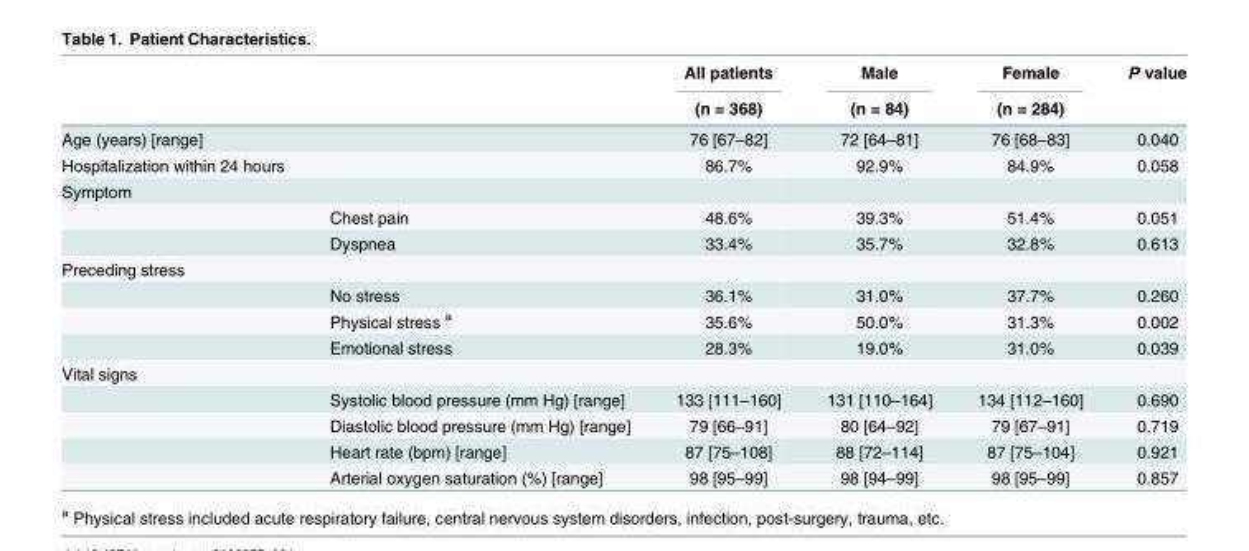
<table><thead><tr><td rowspan="2"></td><td rowspan="2"></td><td rowspan="2">All patients (n = 368)</td><td rowspan="2">Male (n = 84)</td><td rowspan="2">Female (n = 284)</td><td rowspan="2">P value</td></tr><tr></tr></thead><tbody><tr><td>Age (years) [range]</td><td></td><td>76 [67–82]</td><td>72 [64–81]</td><td>76 [68–83]</td><td>0.040</td></tr><tr><td>Hospitalization within 24 hours</td><td></td><td>86.7%</td><td>92.9%</td><td>84.9%</td><td>0.058</td></tr><tr><td colspan="6">Symptom</td></tr><tr><td></td><td>Chest pain</td><td>48.6%</td><td>39.3%</td><td>51.4%</td><td>0.051</td></tr><tr><td></td><td>Dyspnea</td><td>33.4%</td><td>35.7%</td><td>32.8%</td><td>0.613</td></tr><tr><td colspan="6">Preceding stress</td></tr><tr><td></td><td>No stress</td><td>36.1%</td><td>31.0%</td><td>37.7%</td><td>0.260</td></tr><tr><td></td><td>Physical stress <sup>a</sup></td><td>35.6%</td><td>50.0%</td><td>31.3%</td><td>0.002</td></tr><tr><td></td><td>Emotional stress</td><td>28.3%</td><td>19.0%</td><td>31.0%</td><td>0.039</td></tr><tr><td colspan="6">Vital signs</td></tr><tr><td></td><td>Systolic blood pressure (mm Hg) [range]</td><td>133 [111–160]</td><td>131 [110–164]</td><td>134 [112–160]</td><td>0.690</td></tr><tr><td></td><td>Diastolic blood pressure (mm Hg) [range]</td><td>79 [66–91]</td><td>80 [64–92]</td><td>79 [67–91]</td><td>0.719</td></tr><tr><td></td><td>Heart rate (bpm) [range]</td><td>87 [75–108]</td><td>88 [72–114]</td><td>87 [75–104]</td><td>0.921</td></tr><tr><td></td><td>Arterial oxygen saturation (%) [range]</td><td>98 [95–99]</td><td>98 [94–99]</td><td>98 [95–99]</td><td>0.857</td></tr></tbody></table>